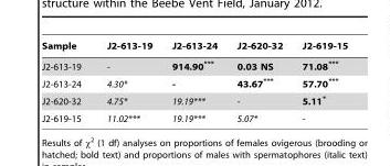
<table><thead><tr><td>Sample</td><td>J2-613-19</td><td>J2-613-24</td><td>J2-620-32</td><td>J2-619-15</td></tr></thead><tbody><tr><td>J2-613-19</td><td>-</td><td>914.90***</td><td>0.03 NS</td><td>71.08***</td></tr><tr><td>J2-613-24</td><td>4.30*</td><td>-</td><td>43.67***</td><td>57.70***</td></tr><tr><td>J2-620-32</td><td>4.75*</td><td>19.19***</td><td>-</td><td>5.11*</td></tr><tr><td>J2-619-15</td><td>11.02***</td><td>19.19***</td><td>5.07*</td><td>-</td></tr></tbody></table>